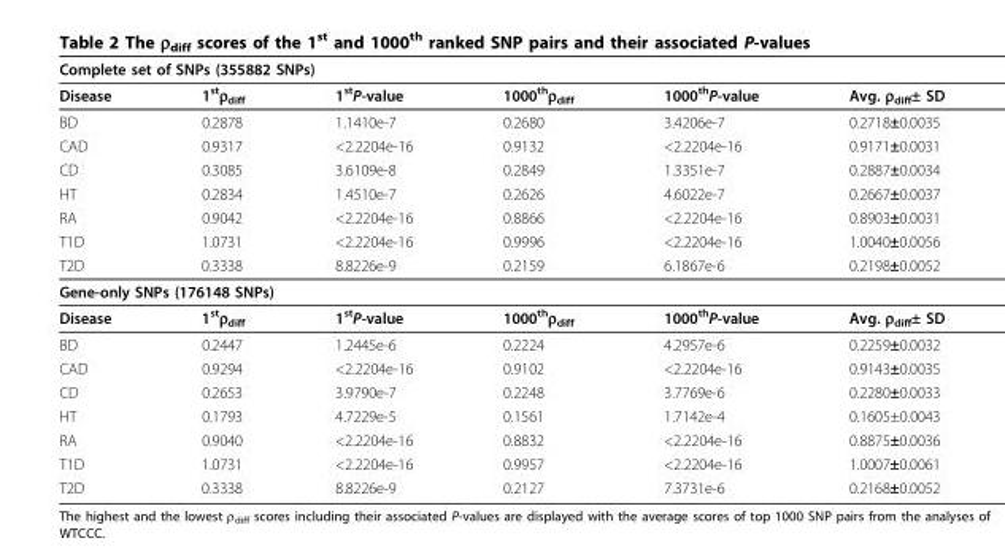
<table><thead><tr><td colspan="6">Complete set of SNPs (355882 SNPs)</td></tr><tr><td>Disease</td><td>1<sup>st</sup>ρ<sub>diff</sub></td><td>1<sup>st</sup>P-value</td><td>1000<sup>th</sup>ρ<sub>diff</sub></td><td>1000<sup>th</sup>P-value</td><td>Avg. ρ<sub>diff</sub>± SD</td></tr></thead><tbody><tr><td>BD</td><td>0.2878</td><td>1.1410e-7</td><td>0.2680</td><td>3.4206e-7</td><td>0.2718±0.0035</td></tr><tr><td>CAD</td><td>0.9317</td><td>&lt;2.2204e-16</td><td>0.9132</td><td>&lt;2.2204e-16</td><td>0.9171±0.0031</td></tr><tr><td>CD</td><td>0.3085</td><td>3.6109e-8</td><td>0.2849</td><td>1.3351e-7</td><td>0.2887±0.0034</td></tr><tr><td>HT</td><td>0.2834</td><td>1.4510e-7</td><td>0.2626</td><td>4.6022e-7</td><td>0.2667±0.0037</td></tr><tr><td>RA</td><td>0.9042</td><td>&lt;2.2204e-16</td><td>0.8866</td><td>&lt;2.2204e-16</td><td>0.8903±0.0031</td></tr><tr><td>T1D</td><td>1.0731</td><td>&lt;2.2204e-16</td><td>0.9996</td><td>&lt;2.2204e-16</td><td>1.0040±0.0056</td></tr><tr><td>T2D</td><td>0.3338</td><td>8.8226e-9</td><td>0.2159</td><td>6.1867e-6</td><td>0.2198±0.0052</td></tr><tr><td colspan="6">Gene-only SNPs (176148 SNPs)</td></tr><tr><td>Disease</td><td>1<sup>st</sup>ρ<sub>diff</sub></td><td>1<sup>st</sup>P-value</td><td>1000<sup>th</sup>ρ<sub>diff</sub></td><td>1000<sup>th</sup>P-value</td><td>Avg. ρ<sub>diff</sub>± SD</td></tr><tr><td>BD</td><td>0.2447</td><td>1.2445e-6</td><td>0.2224</td><td>4.2957e-6</td><td>0.2259±0.0032</td></tr><tr><td>CAD</td><td>0.9294</td><td>&lt;2.2204e-16</td><td>0.9102</td><td>&lt;2.2204e-16</td><td>0.9143±0.0035</td></tr><tr><td>CD</td><td>0.2653</td><td>3.9790e-7</td><td>0.2248</td><td>3.7769e-6</td><td>0.2280±0.0033</td></tr><tr><td>HT</td><td>0.1793</td><td>4.7229e-5</td><td>0.1561</td><td>1.7142e-4</td><td>0.1605±0.0043</td></tr><tr><td>RA</td><td>0.9040</td><td>&lt;2.2204e-16</td><td>0.8832</td><td>&lt;2.2204e-16</td><td>0.8875±0.0036</td></tr><tr><td>T1D</td><td>1.0731</td><td>&lt;2.2204e-16</td><td>0.9957</td><td>&lt;2.2204e-16</td><td>1.0007±0.0061</td></tr><tr><td>T2D</td><td>0.3338</td><td>8.8226e-9</td><td>0.2127</td><td>7.3731e-6</td><td>0.2168±0.0052</td></tr></tbody></table>